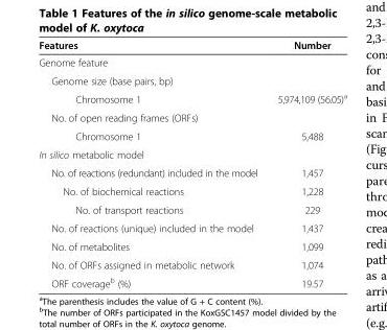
<table><thead><tr><td>Features</td><td>Number</td></tr></thead><tbody><tr><td colspan="2">Genome feature</td></tr><tr><td colspan="2">Genome size (base pairs, bp)</td></tr><tr><td>Chromosome 1</td><td>5,974,109 (56.05)<sup>a</sup></td></tr><tr><td colspan="2">No. of open reading frames (ORFs)</td></tr><tr><td>Chromosome 1</td><td>5,488</td></tr><tr><td colspan="2">In silico metabolic model</td></tr><tr><td>No. of reactions (redundant) included in the model</td><td>1,457</td></tr><tr><td>No. of biochemical reactions</td><td>1,228</td></tr><tr><td>No. of transport reactions</td><td>229</td></tr><tr><td>No. of reactions (unique) included in the model</td><td>1,437</td></tr><tr><td>No. of metabolites</td><td>1,099</td></tr><tr><td>No. of ORFs assigned in metabolic network</td><td>1,074</td></tr><tr><td>ORF coverage<sup>b</sup> (%)</td><td>19.57</td></tr></tbody></table>